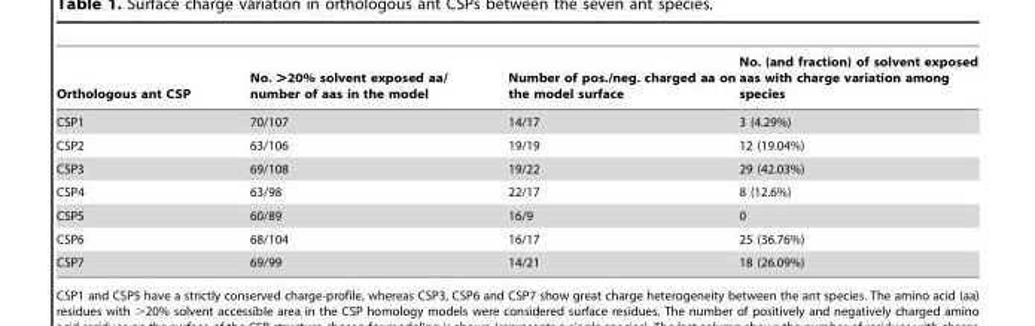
<table><thead><tr><td>Orthologous ant CSP</td><td>No. &gt;20% solvent exposed aa/ number of aas in the model</td><td>Number of pos./neg. charged aa on the model surface</td><td>No. (and fraction) of solvent exposed aas with charge variation among species</td></tr></thead><tbody><tr><td>CSP1</td><td>70/107</td><td>14/17</td><td>3 (4.29%)</td></tr><tr><td>CSP2</td><td>63/106</td><td>19/19</td><td>12 (19.04%)</td></tr><tr><td>CSP3</td><td>69/108</td><td>19/22</td><td>29 (42.03%)</td></tr><tr><td>CSP4</td><td>63/98</td><td>22/17</td><td>8 (12.6%)</td></tr><tr><td>CSP5</td><td>60/89</td><td>16/9</td><td>0</td></tr><tr><td>CSP6</td><td>68/104</td><td>16/17</td><td>25 (36.76%)</td></tr><tr><td>CSP7</td><td>69/99</td><td>14/21</td><td>18 (26.09%)</td></tr></tbody></table>